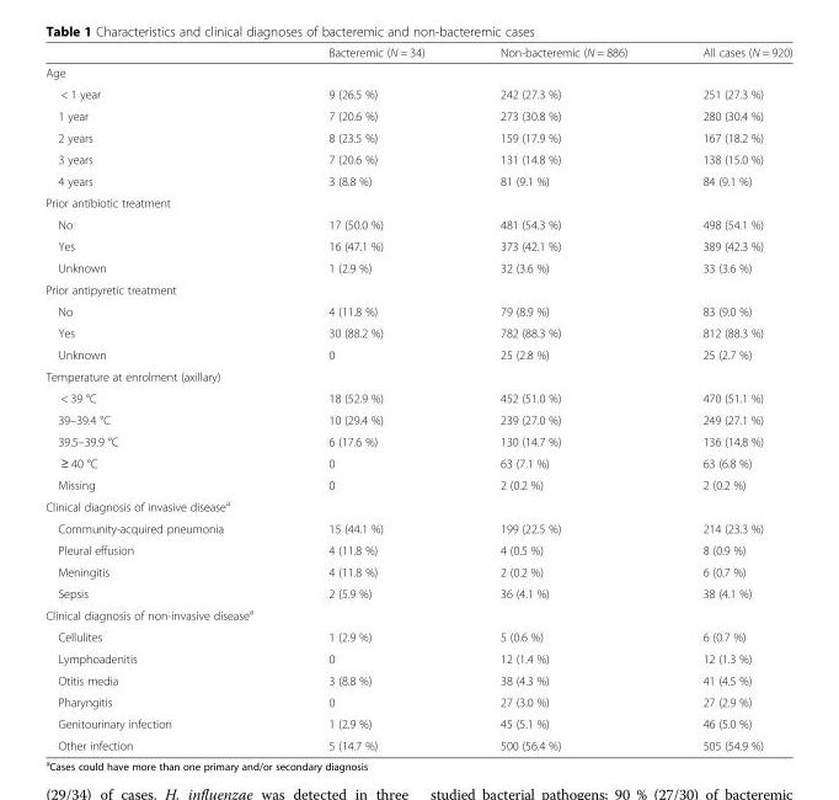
<table><thead><tr><td></td><td>Bacteremic (N = 34)</td><td>Non-bacteremic (N = 886)</td><td>All cases (N = 920)</td></tr></thead><tbody><tr><td colspan="4">Age</td></tr><tr><td>&lt; 1 year</td><td>9 (26.5 %)</td><td>242 (27.3 %)</td><td>251 (27.3 %)</td></tr><tr><td>1 year</td><td>7 (20.6 %)</td><td>273 (30.8 %)</td><td>280 (30.4 %)</td></tr><tr><td>2 years</td><td>8 (23.5 %)</td><td>159 (17.9 %)</td><td>167 (18.2 %)</td></tr><tr><td>3 years</td><td>7 (20.6 %)</td><td>131 (14.8 %)</td><td>138 (15.0 %)</td></tr><tr><td>4 years</td><td>3 (8.8 %)</td><td>81 (9.1 %)</td><td>84 (9.1 %)</td></tr><tr><td colspan="4">Prior antibiotic treatment</td></tr><tr><td>No</td><td>17 (50.0 %)</td><td>481 (54.3 %)</td><td>498 (54.1 %)</td></tr><tr><td>Yes</td><td>16 (47.1 %)</td><td>373 (42.1 %)</td><td>389 (42.3 %)</td></tr><tr><td>Unknown</td><td>1 (2.9 %)</td><td>32 (3.6 %)</td><td>33 (3.6 %)</td></tr><tr><td colspan="4">Prior antipyretic treatment</td></tr><tr><td>No</td><td>4 (11.8 %)</td><td>79 (8.9 %)</td><td>83 (9.0 %)</td></tr><tr><td>Yes</td><td>30 (88.2 %)</td><td>782 (88.3 %)</td><td>812 (88.3 %)</td></tr><tr><td>Unknown</td><td>0</td><td>25 (2.8 %)</td><td>25 (2.7 %)</td></tr><tr><td colspan="4">Temperature at enrolment (axillary)</td></tr><tr><td>&lt; 39 °C</td><td>18 (52.9 %)</td><td>452 (51.0 %)</td><td>470 (51.1 %)</td></tr><tr><td>39–39.4 °C</td><td>10 (29.4 %)</td><td>239 (27.0 %)</td><td>249 (27.1 %)</td></tr><tr><td>39.5–39.9 °C</td><td>6 (17.6 %)</td><td>130 (14.7 %)</td><td>136 (14.8 %)</td></tr><tr><td>≥ 40 °C</td><td>0</td><td>63 (7.1 %)</td><td>63 (6.8 %)</td></tr><tr><td>Missing</td><td>0</td><td>2 (0.2 %)</td><td>2 (0.2 %)</td></tr><tr><td colspan="4">Clinical diagnosis of invasive disease<sup>a</sup></td></tr><tr><td>Community-acquired pneumonia</td><td>15 (44.1 %)</td><td>199 (22.5 %)</td><td>214 (23.3 %)</td></tr><tr><td>Pleural effusion</td><td>4 (11.8 %)</td><td>4 (0.5 %)</td><td>8 (0.9 %)</td></tr><tr><td>Meningitis</td><td>4 (11.8 %)</td><td>2 (0.2 %)</td><td>6 (0.7 %)</td></tr><tr><td>Sepsis</td><td>2 (5.9 %)</td><td>36 (4.1 %)</td><td>38 (4.1 %)</td></tr><tr><td colspan="4">Clinical diagnosis of non-invasive disease<sup>a</sup></td></tr><tr><td>Cellulites</td><td>1 (2.9 %)</td><td>5 (0.6 %)</td><td>6 (0.7 %)</td></tr><tr><td>Lymphoadenitis</td><td>0</td><td>12 (1.4 %)</td><td>12 (1.3 %)</td></tr><tr><td>Otitis media</td><td>3 (8.8 %)</td><td>38 (4.3 %)</td><td>41 (4.5 %)</td></tr><tr><td>Pharyngitis</td><td>0</td><td>27 (3.0 %)</td><td>27 (2.9 %)</td></tr><tr><td>Genitourinary infection</td><td>1 (2.9 %)</td><td>45 (5.1 %)</td><td>46 (5.0 %)</td></tr><tr><td>Other infection</td><td>5 (14.7 %)</td><td>500 (56.4 %)</td><td>505 (54.9 %)</td></tr></tbody></table>